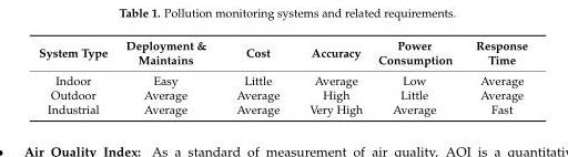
<table><thead><tr><td>System Type</td><td>Deployment &amp; Maintains</td><td>Cost</td><td>Accuracy</td><td>Power Consumption</td><td>Response Time</td></tr></thead><tbody><tr><td>Indoor</td><td>Easy</td><td>Little</td><td>Average</td><td>Low</td><td>Average</td></tr><tr><td>Outdoor</td><td>Average</td><td>Average</td><td>High</td><td>Little</td><td>Average</td></tr><tr><td>Industrial</td><td>Average</td><td>Average</td><td>Very High</td><td>Average</td><td>Fast</td></tr></tbody></table>